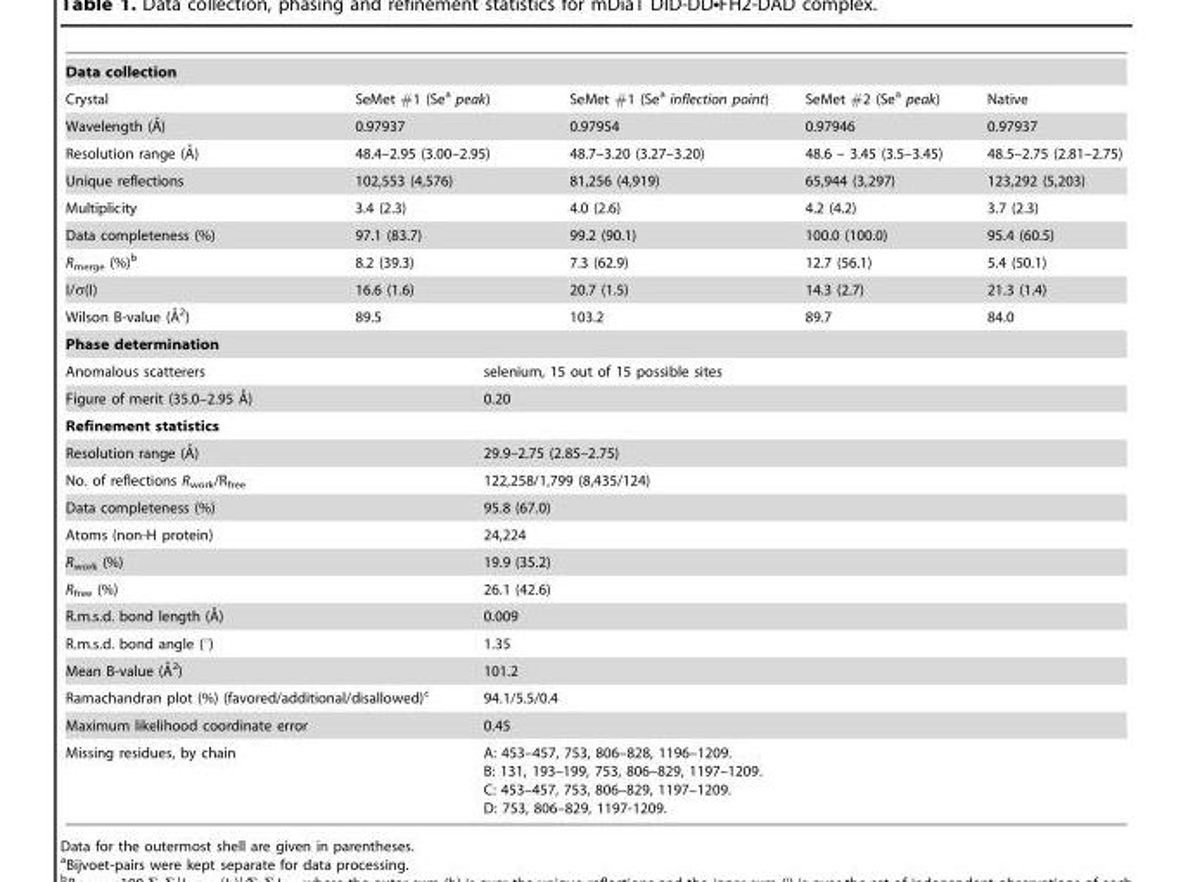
<table><tbody><tr><td colspan="6">Data collection</td></tr><tr><td>Crystal</td><td colspan="2">SeMet #1 (Se<sup>a</sup> peak)</td><td>SeMet #1 (Se<sup>a</sup> inflection point)</td><td>SeMet #2 (Se<sup>a</sup> peak)</td><td>Native</td></tr><tr><td>Wavelength (A˚)</td><td colspan="2">0.97937</td><td>0.97954</td><td>0.97946</td><td>0.97937</td></tr><tr><td>Resolution range (A˚)</td><td colspan="2">48.4–2.95 (3.00–2.95)</td><td>48.7–3.20 (3.27–3.20)</td><td>48.6 – 3.45 (3.5–3.45)</td><td>48.5–2.75 (2.81–2.75)</td></tr><tr><td>Unique reflections</td><td colspan="2">102,553 (4,576)</td><td>81,256 (4,919)</td><td>65,944 (3,297)</td><td>123,292 (5,203)</td></tr><tr><td>Multiplicity</td><td colspan="2">3.4 (2.3)</td><td>4.0 (2.6)</td><td>4.2 (4.2)</td><td>3.7 (2.3)</td></tr><tr><td>Data completeness (%)</td><td colspan="2">97.1 (83.7)</td><td>99.2 (90.1)</td><td>100.0 (100.0)</td><td>95.4 (60.5)</td></tr><tr><td>R<sub>merge</sub> (%)<sup>b</sup></td><td colspan="2">8.2 (39.3)</td><td>7.3 (62.9)</td><td>12.7 (56.1)</td><td>5.4 (50.1)</td></tr><tr><td>I/σ(I)</td><td colspan="2">16.6 (1.6)</td><td>20.7 (1.5)</td><td>14.3 (2.7)</td><td>21.3 (1.4)</td></tr><tr><td>Wilson B-value (A˚2)</td><td colspan="2">89.5</td><td>103.2</td><td>89.7</td><td>84.0</td></tr><tr><td colspan="6">Phase determination</td></tr><tr><td colspan="2">Anomalous scatterers</td><td colspan="4">selenium, 15 out of 15 possible sites</td></tr><tr><td colspan="2">Figure of merit (35.0–2.95 A˚)</td><td colspan="4">0.20</td></tr><tr><td colspan="6">Refinement statistics</td></tr><tr><td colspan="2">Resolution range (A˚)</td><td colspan="4">29.9–2.75 (2.85–2.75)</td></tr><tr><td colspan="2">No. of reflections R<sub>work</sub>/R<sub>free</sub></td><td colspan="4">122,258/1,799 (8,435/124)</td></tr><tr><td colspan="2">Data completeness (%)</td><td colspan="4">95.8 (67.0)</td></tr><tr><td colspan="2">Atoms (non-H protein)</td><td colspan="4">24,224</td></tr><tr><td colspan="2">R<sub>work</sub> (%)</td><td colspan="4">19.9 (35.2)</td></tr><tr><td colspan="2">R<sub>free</sub> (%)</td><td colspan="4">26.1 (42.6)</td></tr><tr><td colspan="2">R.m.s.d. bond length (A˚)</td><td colspan="4">0.009</td></tr><tr><td colspan="2">R.m.s.d. bond angle (°)</td><td colspan="4">1.35</td></tr><tr><td colspan="2">Mean B-value (A˚ 2)</td><td colspan="4">101.2</td></tr><tr><td colspan="2">Ramachandran plot (%) (favored/additional/disallowed)<sup>c</sup></td><td colspan="4">94.1/5.5/0.4</td></tr><tr><td colspan="2">Maximum likelihood coordinate error</td><td colspan="4">0.45</td></tr><tr><td colspan="2">Missing residues, by chain</td><td colspan="4">A: 453–457, 753, 806–828, 1196–1209. B: 131, 193–199, 753, 806–829, 1197–1209. C: 453–457, 753, 806–829, 1197–1209. D: 753, 806–829, 1197-1209.</td></tr></tbody></table>